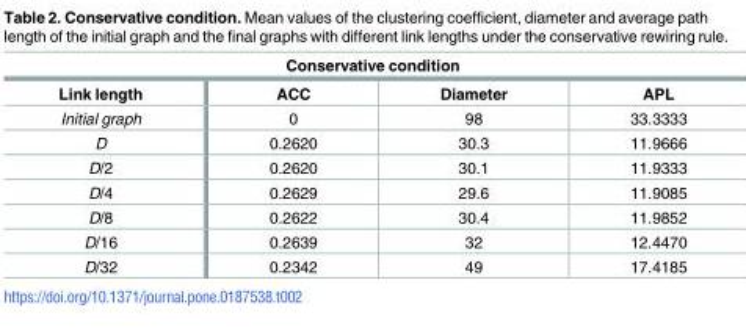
<table><thead><tr><td colspan="4">Conservative condition</td></tr><tr><td>Link length</td><td>ACC</td><td>Diameter</td><td>APL</td></tr></thead><tbody><tr><td>Initial graph</td><td>0</td><td>98</td><td>33.3333</td></tr><tr><td>D</td><td>0.2620</td><td>30.3</td><td>11.9666</td></tr><tr><td>D/2</td><td>0.2620</td><td>30.1</td><td>11.9333</td></tr><tr><td>D/4</td><td>0.2629</td><td>29.6</td><td>11.9085</td></tr><tr><td>D/8</td><td>0.2622</td><td>30.4</td><td>11.9852</td></tr><tr><td>D/16</td><td>0.2639</td><td>32</td><td>12.4470</td></tr><tr><td>D/32</td><td>0.2342</td><td>49</td><td>17.4185</td></tr></tbody></table>